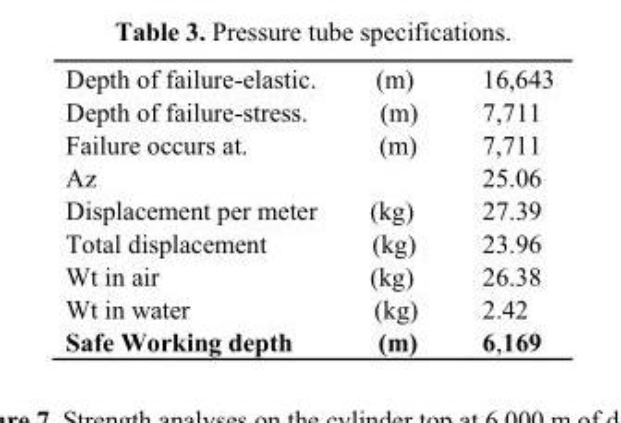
<table><tbody><tr><td>Depth of failure-elastic.</td><td>(m)</td><td>16,643</td></tr><tr><td>Depth of failure-stress.</td><td>(m)</td><td>7,711</td></tr><tr><td>Failure occurs at.</td><td>(m)</td><td>7,711</td></tr><tr><td>Az</td><td></td><td>25.06</td></tr><tr><td>Displacement per meter</td><td>(kg)</td><td>27.39</td></tr><tr><td>Total displacement</td><td>(kg)</td><td>23.96</td></tr><tr><td>Wt in air</td><td>(kg)</td><td>26.38</td></tr><tr><td>Wt in water</td><td>(kg)</td><td>2.42</td></tr><tr><td>Safe Working depth</td><td>(m)</td><td>6,169</td></tr></tbody></table>